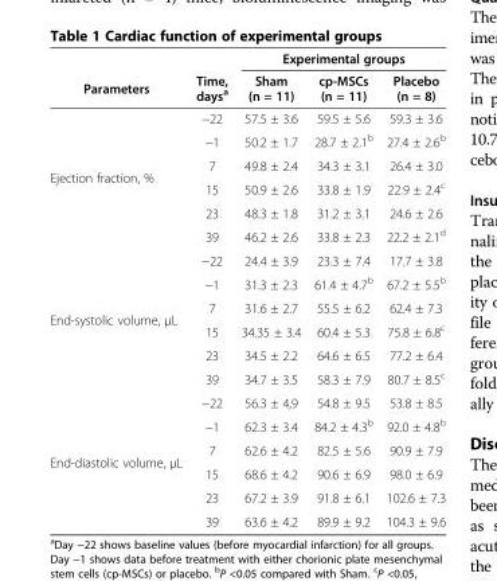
<table><thead><tr><td rowspan="2">Parameters</td><td rowspan="2">Time, days<sup>a</sup></td><td colspan="3">Experimental groups</td></tr><tr><td>Sham (n = 11)</td><td>cp-MSCs (n = 11)</td><td>Placebo (n = 8)</td></tr></thead><tbody><tr><td rowspan="6">Ejection fraction, %</td><td>−22</td><td>57.5 ± 3.6</td><td>59.5 ± 5.6</td><td>59.3 ± 3.6</td></tr><tr><td>−1</td><td>50.2 ± 1.7</td><td>28.7 ± 2.1<sup>b</sup></td><td>27.4 ± 2.6<sup>b</sup></td></tr><tr><td>7</td><td>49.8 ± 2.4</td><td>34.3 ± 3.1</td><td>26.4 ± 3.0</td></tr><tr><td>15</td><td>50.9 ± 2.6</td><td>33.8 ± 1.9</td><td>22.9 ± 2.4<sup>c</sup></td></tr><tr><td>23</td><td>48.3 ± 1.8</td><td>31.2 ± 3.1</td><td>24.6 ± 2.6</td></tr><tr><td>39</td><td>46.2 ± 2.6</td><td>33.8 ± 2.3</td><td>22.2 ± 2.1<sup>d</sup></td></tr><tr><td rowspan="6">End-systolic volume, μL</td><td>−22</td><td>24.4 ± 3.9</td><td>23.3 ± 7.4</td><td>17.7 ± 3.8</td></tr><tr><td>−1</td><td>31.3 ± 2.3</td><td>61.4 ± 4.7<sup>b</sup></td><td>67.2 ± 5.5<sup>b</sup></td></tr><tr><td>7</td><td>31.6 ± 2.7</td><td>55.5 ± 6.2</td><td>62.4 ± 7.3</td></tr><tr><td>15</td><td>34.35 ± 3.4</td><td>60.4 ± 5.3</td><td>75.8 ± 6.8<sup>c</sup></td></tr><tr><td>23</td><td>34.5 ± 2.2</td><td>64.6 ± 6.5</td><td>77.2 ± 6.4</td></tr><tr><td>39</td><td>34.7 ± 3.5</td><td>58.3 ± 7.9</td><td>80.7 ± 8.5<sup>c</sup></td></tr><tr><td rowspan="6">End-diastolic volume, μL</td><td>−22</td><td>56.3 ± 4,9</td><td>54.8 ± 9.5</td><td>53.8 ± 8.5</td></tr><tr><td>−1</td><td>62.3 ± 3.4</td><td>84.2 ± 4.3<sup>b</sup></td><td>92.0 ± 4.8<sup>b</sup></td></tr><tr><td>7</td><td>62.6 ± 4.2</td><td>82.5 ± 5.6</td><td>90.9 ± 7.9</td></tr><tr><td>15</td><td>68.6 ± 4.2</td><td>90.6 ± 6.9</td><td>98.0 ± 6.9</td></tr><tr><td>23</td><td>67.2 ± 3.9</td><td>91.8 ± 6.1</td><td>102.6 ± 7.3</td></tr><tr><td>39</td><td>63.6 ± 4.2</td><td>89.9 ± 9.2</td><td>104.3 ± 9.6</td></tr></tbody></table>